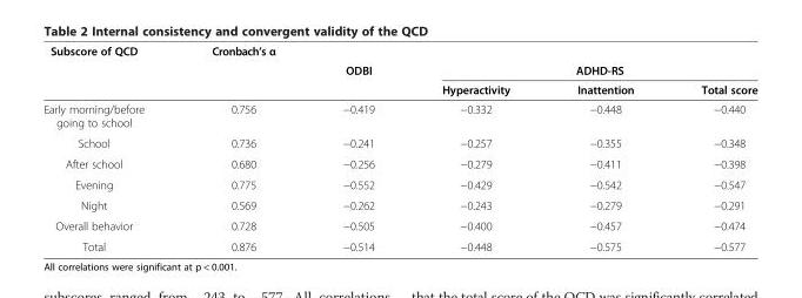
<table><thead><tr><td rowspan="3">Subscore of QCD</td><td rowspan="3">Cronbach’s α</td><td rowspan="3">ODBI</td><td></td><td></td><td></td></tr><tr><td colspan="3">ADHD-RS</td></tr><tr><td>Hyperactivity</td><td>Inattention</td><td>Total score</td></tr></thead><tbody><tr><td>Early morning/before going to school</td><td>0.756</td><td>−0.419</td><td>−0.332</td><td>−0.448</td><td>−0.440</td></tr><tr><td>School</td><td>0.736</td><td>−0.241</td><td>−0.257</td><td>−0.355</td><td>−0.348</td></tr><tr><td>After school</td><td>0.680</td><td>−0.256</td><td>−0.279</td><td>−0.411</td><td>−0.398</td></tr><tr><td>Evening</td><td>0.775</td><td>−0.552</td><td>−0.429</td><td>−0.542</td><td>−0.547</td></tr><tr><td>Night</td><td>0.569</td><td>−0.262</td><td>−0.243</td><td>−0.279</td><td>−0.291</td></tr><tr><td>Overall behavior</td><td>0.728</td><td>−0.505</td><td>−0.400</td><td>−0.457</td><td>−0.474</td></tr><tr><td>Total</td><td>0.876</td><td>−0.514</td><td>−0.448</td><td>−0.575</td><td>−0.577</td></tr></tbody></table>